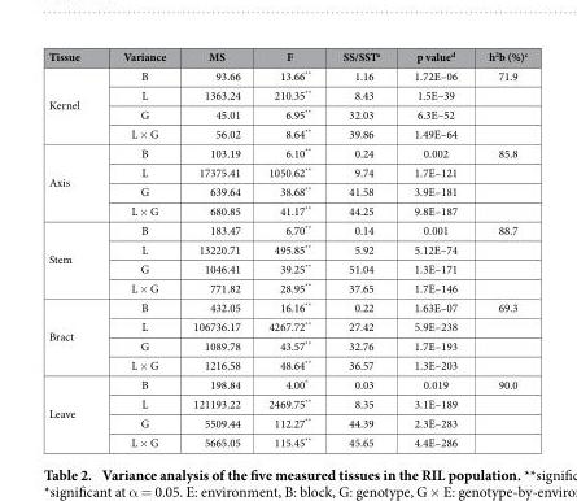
<table><thead><tr><td>Tissue</td><td>Variance</td><td>MS</td><td>F</td><td>SS/SST<sup>a</sup></td><td>p value<sup>d</sup></td><td>h<sup>2</sup>b (%)<sup>c</sup></td></tr></thead><tbody><tr><td rowspan="4">Kernel</td><td>B</td><td>93.66</td><td>13.66**</td><td>1.16</td><td>1.72E–06</td><td>71.9</td></tr><tr><td>L</td><td>1363.24</td><td>210.35**</td><td>8.43</td><td>1.5E–39</td><td></td></tr><tr><td>G</td><td>45.01</td><td>6.95**</td><td>32.03</td><td>6.3E–52</td><td></td></tr><tr><td>L × G</td><td>56.02</td><td>8.64**</td><td>39.86</td><td>1.49E–64</td><td></td></tr><tr><td rowspan="4">Axis</td><td>B</td><td>103.19</td><td>6.10**</td><td>0.24</td><td>0.002</td><td>85.8</td></tr><tr><td>L</td><td>17375.41</td><td>1050.62**</td><td>9.74</td><td>1.7E–121</td><td></td></tr><tr><td>G</td><td>639.64</td><td>38.68**</td><td>41.58</td><td>3.9E–181</td><td></td></tr><tr><td>L × G</td><td>680.85</td><td>41.17**</td><td>44.25</td><td>9.8E–187</td><td></td></tr><tr><td rowspan="4">Stem</td><td>B</td><td>183.47</td><td>6.70**</td><td>0.14</td><td>0.001</td><td>88.7</td></tr><tr><td>L</td><td>13220.71</td><td>495.85**</td><td>5.92</td><td>5.12E–74</td><td></td></tr><tr><td>G</td><td>1046.41</td><td>39.25**</td><td>51.04</td><td>1.3E–171</td><td></td></tr><tr><td>L × G</td><td>771.82</td><td>28.95**</td><td>37.65</td><td>1.7E–146</td><td></td></tr><tr><td rowspan="4">Bract</td><td>B</td><td>432.05</td><td>16.16**</td><td>0.22</td><td>1.63E–07</td><td>69.3</td></tr><tr><td>L</td><td>106736.17</td><td>4267.72**</td><td>27.42</td><td>5.9E–238</td><td></td></tr><tr><td>G</td><td>1089.78</td><td>43.57**</td><td>32.76</td><td>1.7E–193</td><td></td></tr><tr><td>L × G</td><td>1216.58</td><td>48.64**</td><td>36.57</td><td>1.3E–203</td><td></td></tr><tr><td rowspan="4">Leave</td><td>B</td><td>198.84</td><td>4.00*</td><td>0.03</td><td>0.019</td><td>90.0</td></tr><tr><td>L</td><td>121193.22</td><td>2469.75**</td><td>8.35</td><td>3.1E–189</td><td></td></tr><tr><td>G</td><td>5509.44</td><td>112.27**</td><td>44.39</td><td>2.3E–283</td><td></td></tr><tr><td>L × G</td><td>5665.05</td><td>115.45**</td><td>45.65</td><td>4.4E–286</td><td></td></tr></tbody></table>